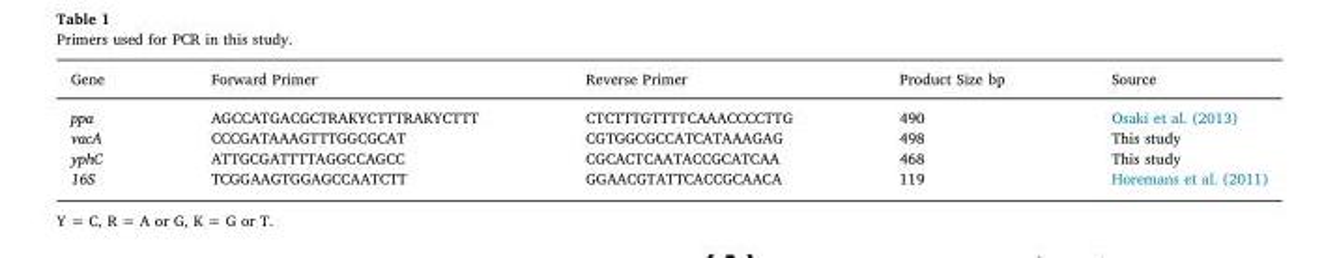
<table><thead><tr><td>Gene</td><td>Forward Primer</td><td>Reverse Primer</td><td>Product Size bp</td><td>Source</td></tr></thead><tbody><tr><td>ppa</td><td>AGCCATGACGCTRAKYCTTTRAKYCTTT</td><td>CTCTTTGTTTTCAAACCCCTTG</td><td>490</td><td>Osaki et al. (2013)</td></tr><tr><td>vacA</td><td>CCCGATAAAGTTTGGCGCAT</td><td>CGTGGCGCCATCATAAAGAG</td><td>498</td><td>This study</td></tr><tr><td>yphC</td><td>ATTGCGATTTTAGGCCAGCC</td><td>CGCACTCAATACCGCATCAA</td><td>468</td><td>This study</td></tr><tr><td>16S</td><td>TCGGAAGTGGAGCCAATCTT</td><td>GGAACGTATTCACCGCAACA</td><td>119</td><td>Horemans et al. (2011)</td></tr></tbody></table>